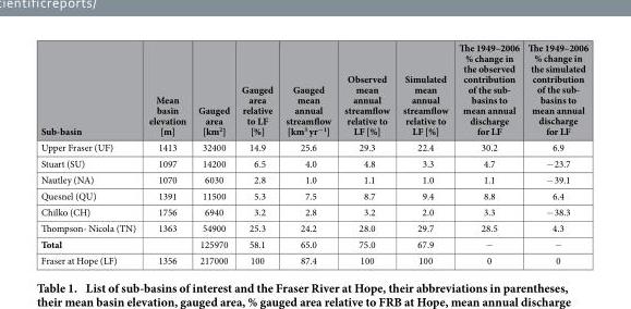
<table><thead><tr><td>Sub-basin</td><td>Mean basin elevation [m]</td><td>Gauged area [km<sup>2</sup>]</td><td>Gauged area relative to LF [%]</td><td>Gauged mean annual streamflow [km<sup>3</sup> yr<sup>−1</sup>]</td><td>Observed mean annual streamflow relative to LF [%]</td><td>Simulated mean annual streamflow relative to LF [%]</td><td>The 1949–2006 % change in the observed contribution of the sub- basins to mean annual discharge for LF</td><td>The 1949–2006 % change in the simulated contribution of the sub- basins to mean annual discharge for LF</td></tr></thead><tbody><tr><td>Upper Fraser (UF)</td><td>1413</td><td>32400</td><td>14.9</td><td>25.6</td><td>29.3</td><td>22.4</td><td>30.2</td><td>6.9</td></tr><tr><td>Stuart (SU)</td><td>1097</td><td>14200</td><td>6.5</td><td>4.0</td><td>4.8</td><td>3.3</td><td>4.7</td><td>− 23.7</td></tr><tr><td>Nautley (NA)</td><td>1070</td><td>6030</td><td>2.8</td><td>1.0</td><td>1.1</td><td>1.0</td><td>1.1</td><td>− 39.1</td></tr><tr><td>Quesnel (QU)</td><td>1391</td><td>11500</td><td>5.3</td><td>7.5</td><td>8.7</td><td>9.4</td><td>8.8</td><td>6.4</td></tr><tr><td>Chilko (CH)</td><td>1756</td><td>6940</td><td>3.2</td><td>2.8</td><td>3.2</td><td>2.0</td><td>3.3</td><td>− 38.3</td></tr><tr><td>Thompson- Nicola (TN)</td><td>1363</td><td>54900</td><td>25.3</td><td>24.2</td><td>28.0</td><td>29.7</td><td>28.5</td><td>4.3</td></tr><tr><td>Total</td><td></td><td>125970</td><td>58.1</td><td>65.0</td><td>75.0</td><td>67.9</td><td>−</td><td>−</td></tr><tr><td>Fraser at Hope (LF)</td><td>1356</td><td>217000</td><td>100</td><td>87.4</td><td>100</td><td>100</td><td>0</td><td>0</td></tr></tbody></table>